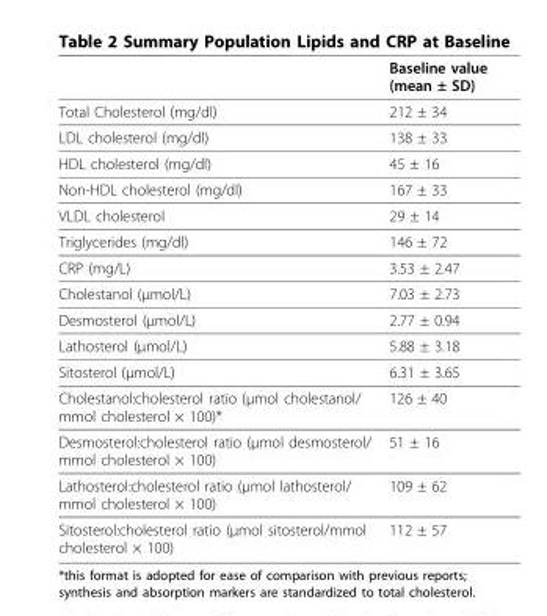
<table><thead><tr><td></td><td>Baseline value (mean ± SD)</td></tr></thead><tbody><tr><td>Total Cholesterol (mg/dl)</td><td>212 ± 34</td></tr><tr><td>LDL cholesterol (mg/dl)</td><td>138 ± 33</td></tr><tr><td>HDL cholesterol (mg/dl)</td><td>45 ± 16</td></tr><tr><td>Non-HDL cholesterol (mg/dl)</td><td>167 ± 33</td></tr><tr><td>VLDL cholesterol</td><td>29 ± 14</td></tr><tr><td>Triglycerides (mg/dl)</td><td>146 ± 72</td></tr><tr><td>CRP (mg/L)</td><td>3.53 ± 2.47</td></tr><tr><td>Cholestanol (μmol/L)</td><td>7.03 ± 2.73</td></tr><tr><td>Desmosterol (μmol/L)</td><td>2.77 ± 0.94</td></tr><tr><td>Lathosterol (μmol/L)</td><td>5.88 ± 3.18</td></tr><tr><td>Sitosterol (μmol/L)</td><td>6.31 ± 3.65</td></tr><tr><td>Cholestanol:cholesterol ratio (μmol cholestanol/ mmol cholesterol × 100)*</td><td>126 ± 40</td></tr><tr><td>Desmosterol:cholesterol ratio (μmol desmosterol/ mmol cholesterol × 100)</td><td>51 ± 16</td></tr><tr><td>Lathosterol:cholesterol ratio (μmol lathosterol/ mmol cholesterol × 100)</td><td>109 ± 62</td></tr><tr><td>Sitosterol:cholesterol ratio (μmol sitosterol/mmol cholesterol × 100)</td><td>112 ± 57</td></tr></tbody></table>